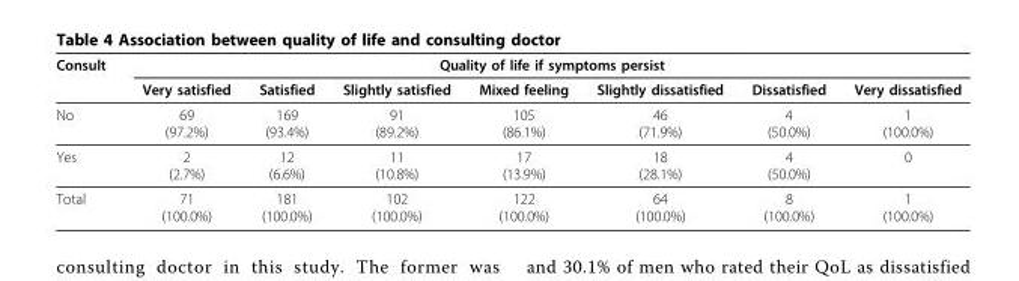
<table><thead><tr><td rowspan="2">Consult</td><td colspan="7">Quality of life if symptoms persist</td></tr><tr><td>Very satisfied</td><td>Satisfied</td><td>Slightly satisfied</td><td>Mixed feeling</td><td>Slightly dissatisfied</td><td>Dissatisfied</td><td>Very dissatisfied</td></tr></thead><tbody><tr><td>No</td><td>69 (97.2%)</td><td>169 (93.4%)</td><td>91 (89.2%)</td><td>105 (86.1%)</td><td>46 (71.9%)</td><td>4 (50.0%)</td><td>1 (100.0%)</td></tr><tr><td>Yes</td><td>2 (2.7%)</td><td>12 (6.6%)</td><td>11 (10.8%)</td><td>17 (13.9%)</td><td>18 (28.1%)</td><td>4 (50.0%)</td><td>0</td></tr><tr><td>Total</td><td>71 (100.0%)</td><td>181 (100.0%)</td><td>102 (100.0%)</td><td>122 (100.0%)</td><td>64 (100.0%)</td><td>8 (100.0%)</td><td>1 (100.0%)</td></tr></tbody></table>